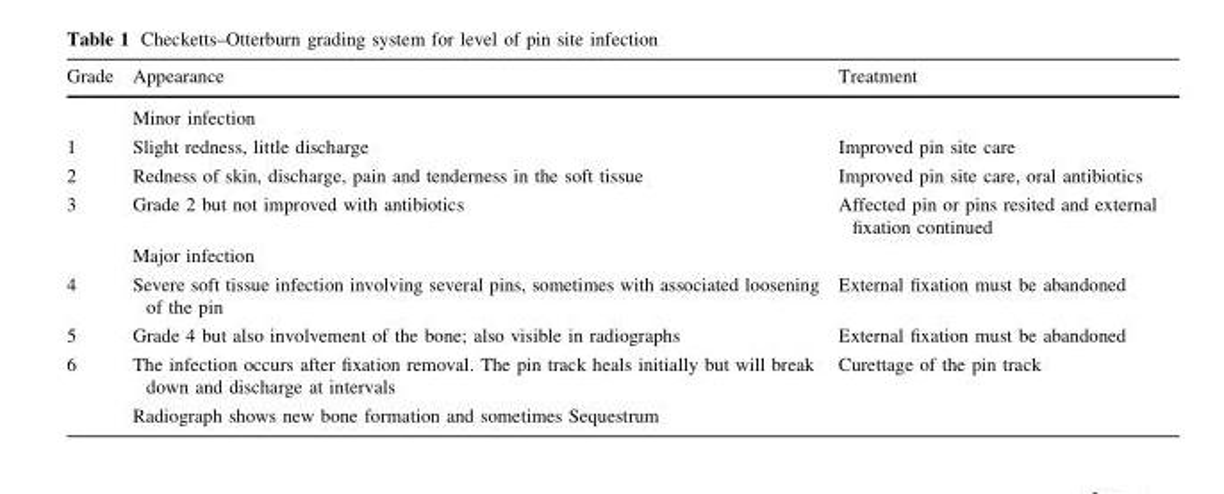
<table><thead><tr><td>Grade</td><td>Appearance</td><td>Treatment</td></tr></thead><tbody><tr><td></td><td>Minor infection</td><td></td></tr><tr><td>1</td><td>Slight redness, little discharge</td><td>Improved pin site care</td></tr><tr><td>2</td><td>Redness of skin, discharge, pain and tenderness in the soft tissue</td><td>Improved pin site care, oral antibiotics</td></tr><tr><td rowspan="2">3</td><td>Grade 2 but not improved with antibiotics</td><td>Affected pin or pins resited and external fixation continued</td></tr><tr><td colspan="2">Major infection</td></tr><tr><td>4</td><td>Severe soft tissue infection involving several pins, sometimes with associated loosening of the pin</td><td>External fixation must be abandoned</td></tr><tr><td>5</td><td>Grade 4 but also involvement of the bone; also visible in radiographs</td><td>External fixation must be abandoned</td></tr><tr><td>6</td><td>The infection occurs after fixation removal. The pin track heals initially but will break down and discharge at intervals Radiograph shows new bone formation and sometimes Sequestrum</td><td>Curettage of the pin track</td></tr></tbody></table>